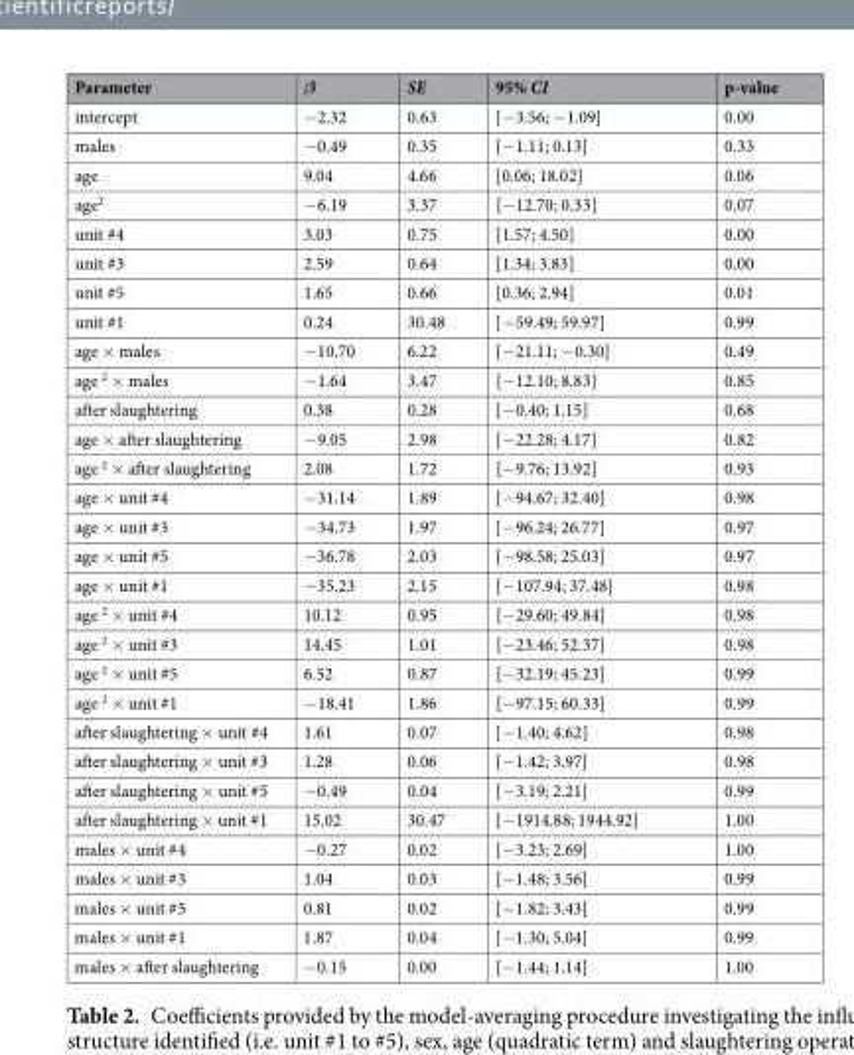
<table><thead><tr><td>Parameter</td><td>β</td><td>SE</td><td>95% CI</td><td>p-value</td></tr></thead><tbody><tr><td>intercept</td><td>−2.32</td><td>0.63</td><td>[−3.56; −1.09]</td><td>0.00</td></tr><tr><td>males</td><td>−0.49</td><td>0.35</td><td>[−1.11; 0.13]</td><td>0.33</td></tr><tr><td>age</td><td>9.04</td><td>4.66</td><td>[0.06; 18.02]</td><td>0.06</td></tr><tr><td>age<sup>2</sup></td><td>−6.19</td><td>3.37</td><td>[−12.70; 0.33]</td><td>0.07</td></tr><tr><td>unit #4</td><td>3.03</td><td>0.75</td><td>[1.57; 4.50]</td><td>0.00</td></tr><tr><td>unit #3</td><td>2.59</td><td>0.64</td><td>[1.34; 3.83]</td><td>0.00</td></tr><tr><td>unit #5</td><td>1.65</td><td>0.66</td><td>[0.36; 2.94]</td><td>0.01</td></tr><tr><td>unit #1</td><td>0.24</td><td>30.48</td><td>[−59.49; 59.97]</td><td>0.99</td></tr><tr><td>age × males</td><td>−10.70</td><td>6.22</td><td>[−21.11; −0.30]</td><td>0.49</td></tr><tr><td>age <sup>2</sup> × males</td><td>−1.64</td><td>3.47</td><td>[−12.10; 8.83]</td><td>0.85</td></tr><tr><td>after slaughtering</td><td>0.38</td><td>0.28</td><td>[−0.40; 1.15]</td><td>0.68</td></tr><tr><td>age × after slaughtering</td><td>−9.05</td><td>2.98</td><td>[−22.28; 4.17]</td><td>0.82</td></tr><tr><td>age <sup>2</sup> × after slaughtering</td><td>2.08</td><td>1.72</td><td>[−9.76; 13.92]</td><td>0.93</td></tr><tr><td>age × unit #4</td><td>−31.14</td><td>1.89</td><td>[−94.67; 32.40]</td><td>0.98</td></tr><tr><td>age × unit #3</td><td>−34.73</td><td>1.97</td><td>[−96.24; 26.77]</td><td>0.97</td></tr><tr><td>age × unit #5</td><td>−36.78</td><td>2.03</td><td>[−98.58; 25.03]</td><td>0.97</td></tr><tr><td>age × unit #1</td><td>−35.23</td><td>2.15</td><td>[−107.94; 37.48]</td><td>0.98</td></tr><tr><td>age <sup>2</sup> × unit #4</td><td>10.12</td><td>0.95</td><td>[−29.60; 49.84]</td><td>0.98</td></tr><tr><td>age <sup>2</sup> × unit #3</td><td>14.45</td><td>1.01</td><td>[−23.46; 52.37]</td><td>0.98</td></tr><tr><td>age <sup>2</sup> × unit #5</td><td>6.52</td><td>0.87</td><td>[−32.19; 45.23]</td><td>0.99</td></tr><tr><td>age <sup>2</sup> × unit #1</td><td>−18.41</td><td>1.86</td><td>[−97.15; 60.33]</td><td>0.99</td></tr><tr><td>after slaughtering × unit #4</td><td>1.61</td><td>0.07</td><td>[−1.40; 4.62]</td><td>0.98</td></tr><tr><td>after slaughtering × unit #3</td><td>1.28</td><td>0.06</td><td>[−1.42; 3.97]</td><td>0.98</td></tr><tr><td>after slaughtering × unit #5</td><td>−0.49</td><td>0.04</td><td>[−3.19; 2.21]</td><td>0.99</td></tr><tr><td>after slaughtering × unit #1</td><td>15.02</td><td>30.47</td><td>[−1914.88; 1944.92]</td><td>1.00</td></tr><tr><td>males × unit #4</td><td>−0.27</td><td>0.02</td><td>[−3.23; 2.69]</td><td>1.00</td></tr><tr><td>males × unit #3</td><td>1.04</td><td>0.03</td><td>[−1.48; 3.56]</td><td>0.99</td></tr><tr><td>males × unit #5</td><td>0.81</td><td>0.02</td><td>[−1.82; 3.43]</td><td>0.99</td></tr><tr><td>males × unit #1</td><td>1.87</td><td>0.04</td><td>[−1.30; 5.04]</td><td>0.99</td></tr><tr><td>males × after slaughtering</td><td>−0.15</td><td>0.00</td><td>[−1.44; 1.14]</td><td>1.00</td></tr></tbody></table>